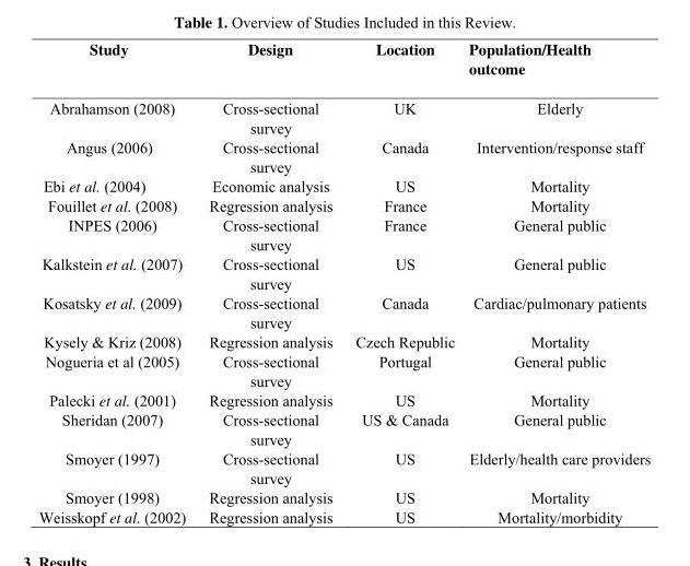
<table><thead><tr><td>Study</td><td>Design</td><td>Location</td><td>Population/Health outcome</td></tr></thead><tbody><tr><td>Abrahamson (2008)</td><td>Cross-sectional survey</td><td>UK</td><td>Elderly</td></tr><tr><td>Angus (2006)</td><td>Cross-sectional survey</td><td>Canada</td><td>Intervention/response staff</td></tr><tr><td>Ebi et al. (2004)</td><td>Economic analysis</td><td>US</td><td>Mortality</td></tr><tr><td>Fouillet et al. (2008)</td><td>Regression analysis</td><td>France</td><td>Mortality</td></tr><tr><td>INPES (2006)</td><td>Cross-sectional survey</td><td>France</td><td>General public</td></tr><tr><td>Kalkstein et al. (2007)</td><td>Cross-sectional survey</td><td>US</td><td>General public</td></tr><tr><td>Kosatsky et al. (2009)</td><td>Cross-sectional survey</td><td>Canada</td><td>Cardiac/pulmonary patients</td></tr><tr><td>Kysely &amp; Kriz (2008)</td><td>Regression analysis</td><td>Czech Republic</td><td>Mortality</td></tr><tr><td>Nogueria et al (2005)</td><td>Cross-sectional survey</td><td>Portugal</td><td>General public</td></tr><tr><td>Palecki et al. (2001)</td><td>Regression analysis</td><td>US</td><td>Mortality</td></tr><tr><td>Sheridan (2007)</td><td>Cross-sectional survey</td><td>US &amp; Canada</td><td>General public</td></tr><tr><td>Smoyer (1997)</td><td>Cross-sectional survey</td><td>US</td><td>Elderly/health care providers</td></tr><tr><td>Smoyer (1998)</td><td>Regression analysis</td><td>US</td><td>Mortality</td></tr><tr><td>Weisskopf et al. (2002)</td><td>Regression analysis</td><td>US</td><td>Mortality/morbidity</td></tr></tbody></table>